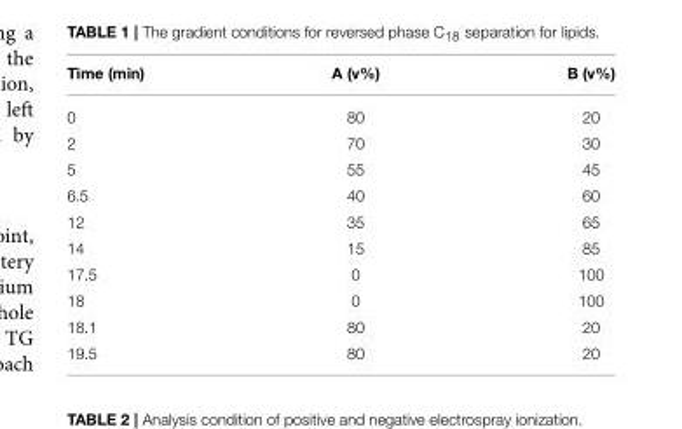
<table><thead><tr><td>Time (min)</td><td>A (v%)</td><td>B (v%)</td></tr></thead><tbody><tr><td>0</td><td>80</td><td>20</td></tr><tr><td>2</td><td>70</td><td>30</td></tr><tr><td>5</td><td>55</td><td>45</td></tr><tr><td>6.5</td><td>40</td><td>60</td></tr><tr><td>12</td><td>35</td><td>65</td></tr><tr><td>14</td><td>15</td><td>85</td></tr><tr><td>17.5</td><td>0</td><td>100</td></tr><tr><td>18</td><td>0</td><td>100</td></tr><tr><td>18.1</td><td>80</td><td>20</td></tr><tr><td>19.5</td><td>80</td><td>20</td></tr></tbody></table>